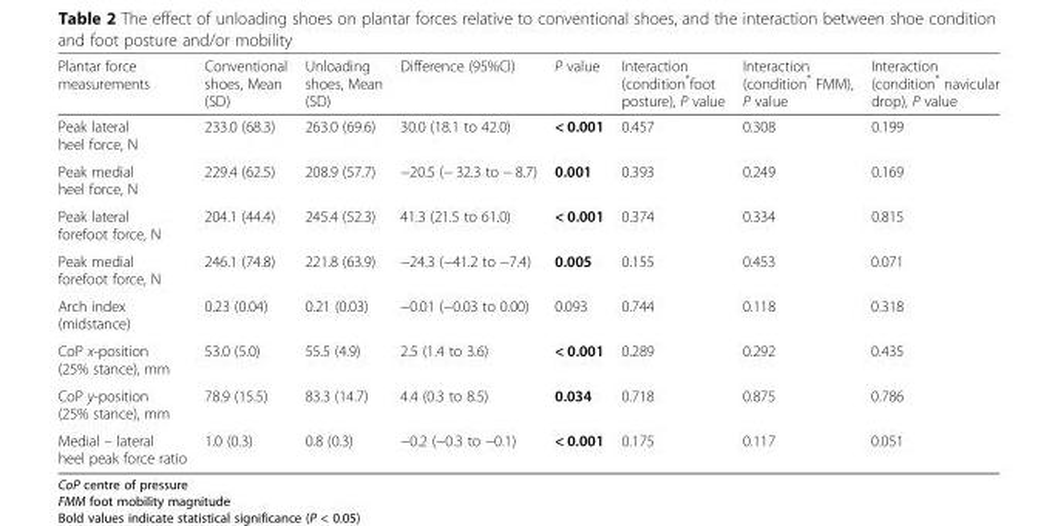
<table><thead><tr><td>Plantar force measurements</td><td>Conventional shoes, Mean (SD)</td><td>Unloading shoes, Mean (SD)</td><td>Difference (95%CI)</td><td>P value</td><td>Interaction (condition*foot posture), P value</td><td>Interaction (condition* FMM), P value</td><td>Interaction (condition* navicular drop), P value</td></tr></thead><tbody><tr><td>Peak lateral heel force, N</td><td>233.0 (68.3)</td><td>263.0 (69.6)</td><td>30.0 (18.1 to 42.0)</td><td>&lt; 0.001</td><td>0.457</td><td>0.308</td><td>0.199</td></tr><tr><td>Peak medial heel force, N</td><td>229.4 (62.5)</td><td>208.9 (57.7)</td><td>−20.5 (− 32.3 to − 8.7)</td><td>0.001</td><td>0.393</td><td>0.249</td><td>0.169</td></tr><tr><td>Peak lateral forefoot force, N</td><td>204.1 (44.4)</td><td>245.4 (52.3)</td><td>41.3 (21.5 to 61.0)</td><td>&lt; 0.001</td><td>0.374</td><td>0.334</td><td>0.815</td></tr><tr><td>Peak medial forefoot force, N</td><td>246.1 (74.8)</td><td>221.8 (63.9)</td><td>−24.3 (−41.2 to −7.4)</td><td>0.005</td><td>0.155</td><td>0.453</td><td>0.071</td></tr><tr><td>Arch index (midstance)</td><td>0.23 (0.04)</td><td>0.21 (0.03)</td><td>−0.01 (−0.03 to 0.00)</td><td>0.093</td><td>0.744</td><td>0.118</td><td>0.318</td></tr><tr><td>CoP x-position (25% stance), mm</td><td>53.0 (5.0)</td><td>55.5 (4.9)</td><td>2.5 (1.4 to 3.6)</td><td>&lt; 0.001</td><td>0.289</td><td>0.292</td><td>0.435</td></tr><tr><td>CoP y-position (25% stance), mm</td><td>78.9 (15.5)</td><td>83.3 (14.7)</td><td>4.4 (0.3 to 8.5)</td><td>0.034</td><td>0.718</td><td>0.875</td><td>0.786</td></tr><tr><td>Medial – lateral heel peak force ratio</td><td>1.0 (0.3)</td><td>0.8 (0.3)</td><td>−0.2 (−0.3 to −0.1)</td><td>&lt; 0.001</td><td>0.175</td><td>0.117</td><td>0.051</td></tr></tbody></table>